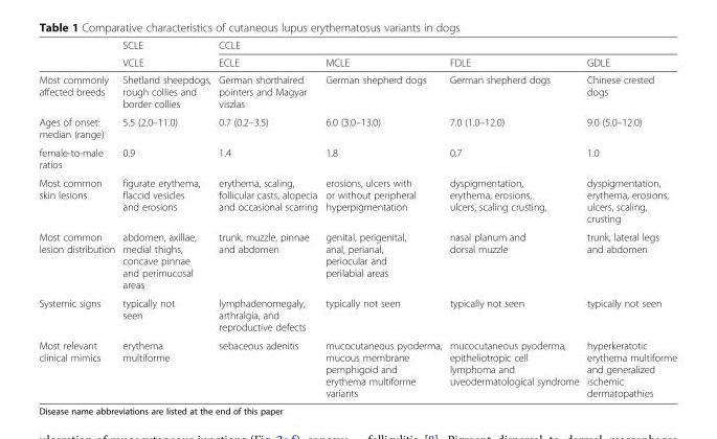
<table><thead><tr><td rowspan="2"></td><td rowspan="2">SCLE VCLE</td><td colspan="4">CCLE</td></tr><tr><td>ECLE</td><td>MCLE</td><td>FDLE</td><td>GDLE</td></tr></thead><tbody><tr><td>Most commonly affected breeds</td><td>Shetland sheepdogs, rough collies and border collies</td><td>German shorthaired pointers and Magyar viszlas</td><td>German shepherd dogs</td><td>German shepherd dogs</td><td>Chinese crested dogs</td></tr><tr><td>Ages of onset: median (range)</td><td>5.5 (2.0–11.0)</td><td>0.7 (0.2–3.5)</td><td>6.0 (3.0–13.0)</td><td>7.0 (1.0–12.0)</td><td>9.0 (5.0–12.0)</td></tr><tr><td>female-to-male ratios</td><td>0.9</td><td>1.4</td><td>1.8</td><td>0.7</td><td>1.0</td></tr><tr><td>Most common skin lesions</td><td>figurate erythema, flaccid vesicles and erosions</td><td>erythema, scaling, follicular casts, alopecia and occasional scarring</td><td>erosions, ulcers with or without peripheral hyperpigmentation</td><td>dyspigmentation, erythema, erosions, ulcers, scaling crusting,</td><td>dyspigmentation, erythema, erosions, ulcers, scaling, crusting</td></tr><tr><td>Most common lesion distribution</td><td>abdomen, axillae, medial thighs, concave pinnae and perimucosal areas</td><td>trunk, muzzle, pinnae and abdomen</td><td>genital, perigenital, anal, perianal, periocular and perilabial areas</td><td>nasal planum and dorsal muzzle</td><td>trunk, lateral legs and abdomen</td></tr><tr><td>Systemic signs</td><td>typically not seen</td><td>lymphadenomegaly, arthralgia, and reproductive defects</td><td>typically not seen</td><td>typically not seen</td><td>typically not seen</td></tr><tr><td>Most relevant clinical mimics</td><td>erythema multiforme</td><td>sebaceous adenitis</td><td>mucocutaneous pyoderma, mucous membrane pemphigoid and erythema multiforme variants</td><td>mucocutaneous pyoderma, epitheliotropic cell lymphoma and uveodermatological syndrome</td><td>hyperkeratotic erythema multiforme and generalized ischemic dermatopathies</td></tr></tbody></table>